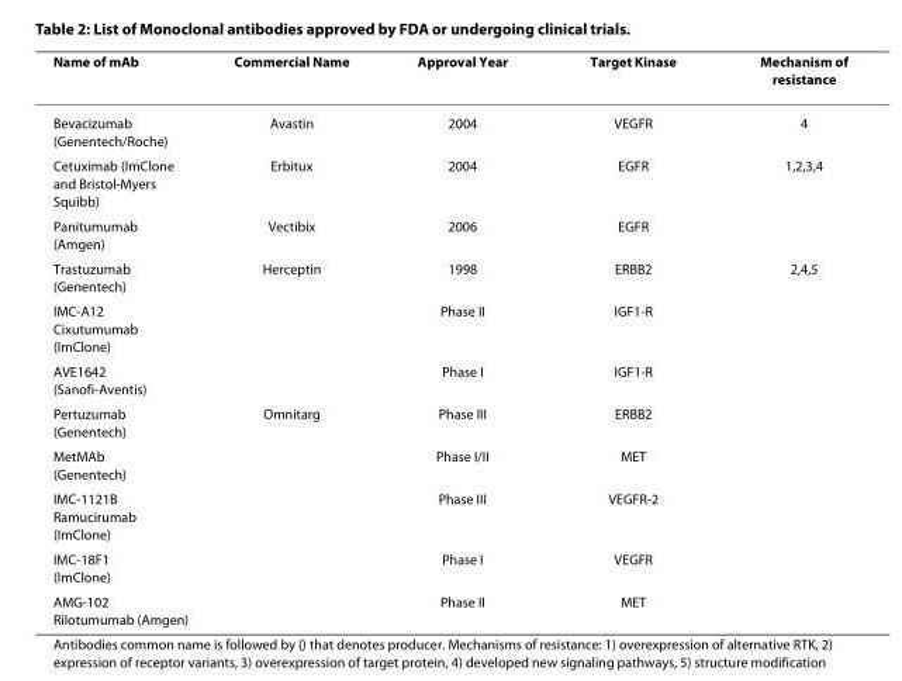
<table><thead><tr><td>Name of mAb</td><td>Commercial Name</td><td>Approval Year</td><td>Target Kinase</td><td>Mechanism of resistance</td></tr></thead><tbody><tr><td>Bevacizumab (Genentech/Roche)</td><td>Avastin</td><td>2004</td><td>VEGFR</td><td>4</td></tr><tr><td>Cetuximab (ImClone and Bristol-Myers Squibb)</td><td>Erbitux</td><td>2004</td><td>EGFR</td><td>1,2,3,4</td></tr><tr><td>Panitumumab (Amgen)</td><td>Vectibix</td><td>2006</td><td>EGFR</td><td></td></tr><tr><td>Trastuzumab (Genentech)</td><td>Herceptin</td><td>1998</td><td>ERBB2</td><td>2,4,5</td></tr><tr><td>IMC-A12 Cixutumumab (ImClone)</td><td></td><td>Phase II</td><td>IGF1-R</td><td></td></tr><tr><td>AVE1642 (Sanofi-Aventis)</td><td></td><td>Phase I</td><td>IGF1-R</td><td></td></tr><tr><td>Pertuzumab (Genentech)</td><td>Omnitarg</td><td>Phase III</td><td>ERBB2</td><td></td></tr><tr><td>MetMAb (Genentech)</td><td></td><td>Phase I/II</td><td>MET</td><td></td></tr><tr><td>IMC-1121B Ramucirumab (ImClone)</td><td></td><td>Phase III</td><td>VEGFR-2</td><td></td></tr><tr><td>IMC-18F1 (ImClone)</td><td></td><td>Phase I</td><td>VEGFR</td><td></td></tr><tr><td>AMG-102 Rilotumumab (Amgen)</td><td></td><td>Phase II</td><td>MET</td><td></td></tr></tbody></table>